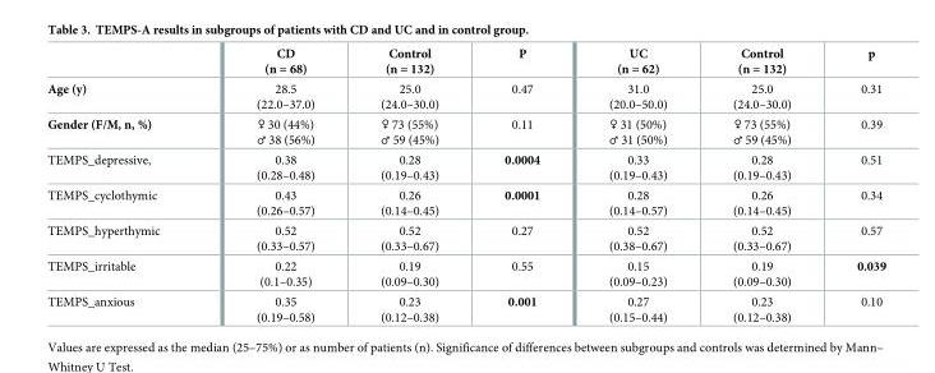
<table><thead><tr><td></td><td>CD (n = 68)</td><td>Control (n = 132)</td><td>P</td><td>UC (n = 62)</td><td>Control (n = 132)</td><td>p</td></tr></thead><tbody><tr><td>Age (y)</td><td>28.5 (22.0–37.0)</td><td>25.0 (24.0–30.0)</td><td>0.47</td><td>31.0 (20.0–50.0)</td><td>25.0 (24.0–30.0)</td><td>0.31</td></tr><tr><td>Gender (F/M, n, %)</td><td>♀ 30 (44%) ♂ 38 (56%)</td><td>♀ 73 (55%) ♂ 59 (45%)</td><td>0.11</td><td>♀ 31 (50%) ♂ 31 (50%)</td><td>♀ 73 (55%) ♂ 59 (45%)</td><td>0.39</td></tr><tr><td>TEMPS_depressive,</td><td>0.38 (0.28–0.48)</td><td>0.28 (0.19–0.43)</td><td>0.0004</td><td>0.33 (0.19–0.43)</td><td>0.28 (0.19–0.43)</td><td>0.51</td></tr><tr><td>TEMPS_cyclothymic</td><td>0.43 (0.26–0.57)</td><td>0.26 (0.14–0.45)</td><td>0.0001</td><td>0.28 (0.14–0.57)</td><td>0.26 (0.14–0.45)</td><td>0.34</td></tr><tr><td>TEMPS_hyperthymic</td><td>0.52 (0.33–0.57)</td><td>0.52 (0.33–0.67)</td><td>0.27</td><td>0.52 (0.38–0.67)</td><td>0.52 (0.33–0.67)</td><td>0.57</td></tr><tr><td>TEMPS_irritable</td><td>0.22 (0.1–0.35)</td><td>0.19 (0.09–0.30)</td><td>0.55</td><td>0.15 (0.09–0.23)</td><td>0.19 (0.09–0.30)</td><td>0.039</td></tr><tr><td>TEMPS_anxious</td><td>0.35 (0.19–0.58)</td><td>0.23 (0.12–0.38)</td><td>0.001</td><td>0.27 (0.15–0.44)</td><td>0.23 (0.12–0.38)</td><td>0.10</td></tr></tbody></table>